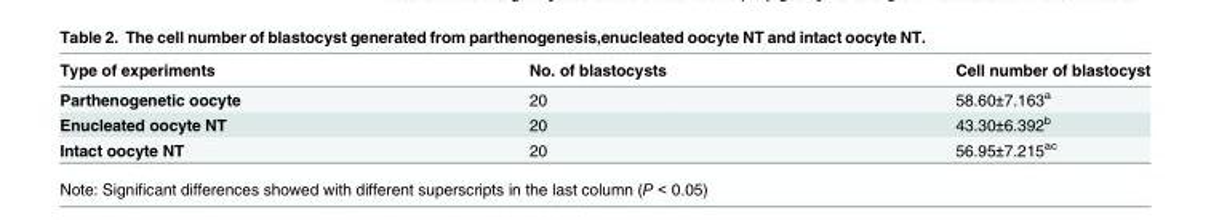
<table><thead><tr><td>Type of experiments</td><td>No. of blastocysts</td><td>Cell number of blastocyst</td></tr></thead><tbody><tr><td>Parthenogenetic oocyte</td><td>20</td><td>58.60±7.163<sup>a</sup></td></tr><tr><td>Enucleated oocyte NT</td><td>20</td><td>43.30±6.392<sup>b</sup></td></tr><tr><td>Intact oocyte NT</td><td>20</td><td>56.95±7.215<sup>ac</sup></td></tr></tbody></table>